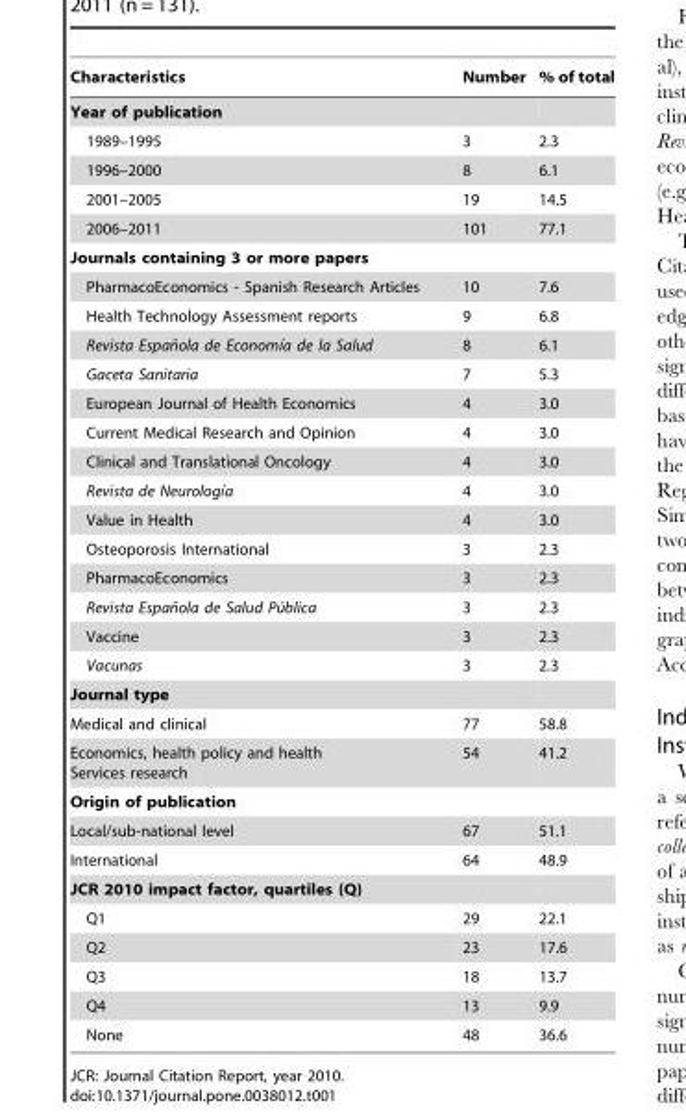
<table><thead><tr><td>Characteristics</td><td>Number</td><td>% of total</td></tr></thead><tbody><tr><td colspan="3">Year of publication</td></tr><tr><td>1989–1995</td><td>3</td><td>2.3</td></tr><tr><td>1996–2000</td><td>8</td><td>6.1</td></tr><tr><td>2001–2005</td><td>19</td><td>14.5</td></tr><tr><td>2006–2011</td><td>101</td><td>77.1</td></tr><tr><td colspan="3">Journals containing 3 or more papers</td></tr><tr><td>PharmacoEconomics - Spanish Research Articles</td><td>10</td><td>7.6</td></tr><tr><td>Health Technology Assessment reports</td><td>9</td><td>6.8</td></tr><tr><td>Revista Espan˜ola de Economı´a de la Salud</td><td>8</td><td>6.1</td></tr><tr><td>Gaceta Sanitaria</td><td>7</td><td>5.3</td></tr><tr><td>European Journal of Health Economics</td><td>4</td><td>3.0</td></tr><tr><td>Current Medical Research and Opinion</td><td>4</td><td>3.0</td></tr><tr><td>Clinical and Translational Oncology</td><td>4</td><td>3.0</td></tr><tr><td>Revista de Neurologı´a</td><td>4</td><td>3.0</td></tr><tr><td>Value in Health</td><td>4</td><td>3.0</td></tr><tr><td>Osteoporosis International</td><td>3</td><td>2.3</td></tr><tr><td>PharmacoEconomics</td><td>3</td><td>2.3</td></tr><tr><td>Revista Espan˜ola de Salud Pu´blica</td><td>3</td><td>2.3</td></tr><tr><td>Vaccine</td><td>3</td><td>2.3</td></tr><tr><td>Vacunas</td><td>3</td><td>2.3</td></tr><tr><td colspan="3">Journal type</td></tr><tr><td>Medical and clinical</td><td>77</td><td>58.8</td></tr><tr><td>Economics, health policy and health Services research</td><td>54</td><td>41.2</td></tr><tr><td colspan="3">Origin of publication</td></tr><tr><td>Local/sub-national level</td><td>67</td><td>51.1</td></tr><tr><td>International</td><td>64</td><td>48.9</td></tr><tr><td colspan="3">JCR 2010 impact factor, quartiles (Q)</td></tr><tr><td>Q1</td><td>29</td><td>22.1</td></tr><tr><td>Q2</td><td>23</td><td>17.6</td></tr><tr><td>Q3</td><td>18</td><td>13.7</td></tr><tr><td>Q4</td><td>13</td><td>9.9</td></tr><tr><td>None</td><td>48</td><td>36.6</td></tr></tbody></table>